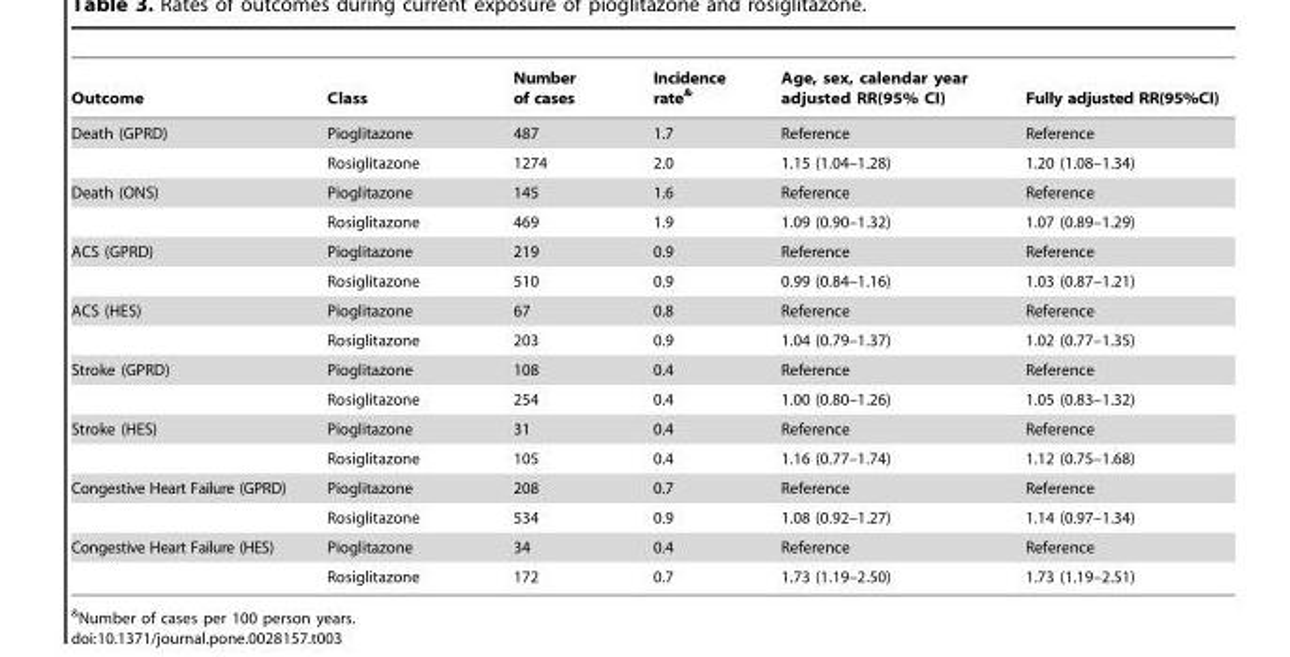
<table><thead><tr><td>Outcome</td><td>Class</td><td>Number of cases</td><td>Incidence rate&amp;</td><td>Age, sex, calendar year adjusted RR(95% CI)</td><td>Fully adjusted RR(95%CI)</td></tr></thead><tbody><tr><td rowspan="2">Death (GPRD)</td><td>Pioglitazone</td><td>487</td><td>1.7</td><td>Reference</td><td>Reference</td></tr><tr><td>Rosiglitazone</td><td>1274</td><td>2.0</td><td>1.15 (1.04–1.28)</td><td>1.20 (1.08–1.34)</td></tr><tr><td rowspan="2">Death (ONS)</td><td>Pioglitazone</td><td>145</td><td>1.6</td><td>Reference</td><td>Reference</td></tr><tr><td>Rosiglitazone</td><td>469</td><td>1.9</td><td>1.09 (0.90–1.32)</td><td>1.07 (0.89–1.29)</td></tr><tr><td rowspan="2">ACS (GPRD)</td><td>Pioglitazone</td><td>219</td><td>0.9</td><td>Reference</td><td>Reference</td></tr><tr><td>Rosiglitazone</td><td>510</td><td>0.9</td><td>0.99 (0.84–1.16)</td><td>1.03 (0.87–1.21)</td></tr><tr><td rowspan="2">ACS (HES)</td><td>Pioglitazone</td><td>67</td><td>0.8</td><td>Reference</td><td>Reference</td></tr><tr><td>Rosiglitazone</td><td>203</td><td>0.9</td><td>1.04 (0.79–1.37)</td><td>1.02 (0.77–1.35)</td></tr><tr><td rowspan="2">Stroke (GPRD)</td><td>Pioglitazone</td><td>108</td><td>0.4</td><td>Reference</td><td>Reference</td></tr><tr><td>Rosiglitazone</td><td>254</td><td>0.4</td><td>1.00 (0.80–1.26)</td><td>1.05 (0.83–1.32)</td></tr><tr><td rowspan="2">Stroke (HES)</td><td>Pioglitazone</td><td>31</td><td>0.4</td><td>Reference</td><td>Reference</td></tr><tr><td>Rosiglitazone</td><td>105</td><td>0.4</td><td>1.16 (0.77–1.74)</td><td>1.12 (0.75–1.68)</td></tr><tr><td rowspan="2">Congestive Heart Failure (GPRD)</td><td>Pioglitazone</td><td>208</td><td>0.7</td><td>Reference</td><td>Reference</td></tr><tr><td>Rosiglitazone</td><td>534</td><td>0.9</td><td>1.08 (0.92–1.27)</td><td>1.14 (0.97–1.34)</td></tr><tr><td rowspan="2">Congestive Heart Failure (HES)</td><td>Pioglitazone</td><td>34</td><td>0.4</td><td>Reference</td><td>Reference</td></tr><tr><td>Rosiglitazone</td><td>172</td><td>0.7</td><td>1.73 (1.19–2.50)</td><td>1.73 (1.19–2.51)</td></tr></tbody></table>